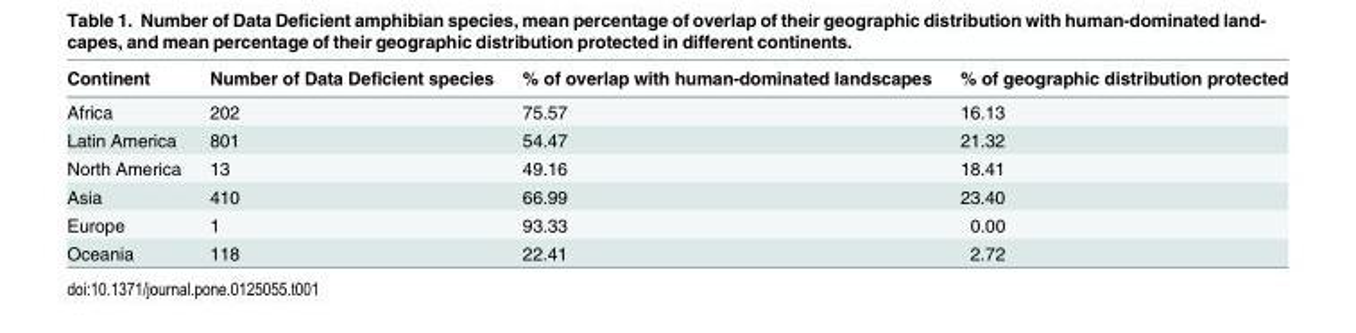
<table><thead><tr><td>Continent</td><td>Number of Data Deficient species</td><td>% of overlap with human-dominated landscapes</td><td>% of geographic distribution protected</td></tr></thead><tbody><tr><td>Africa</td><td>202</td><td>75.57</td><td>16.13</td></tr><tr><td>Latin America</td><td>801</td><td>54.47</td><td>21.32</td></tr><tr><td>North America</td><td>13</td><td>49.16</td><td>18.41</td></tr><tr><td>Asia</td><td>410</td><td>66.99</td><td>23.40</td></tr><tr><td>Europe</td><td>1</td><td>93.33</td><td>0.00</td></tr><tr><td>Oceania</td><td>118</td><td>22.41</td><td>2.72</td></tr></tbody></table>